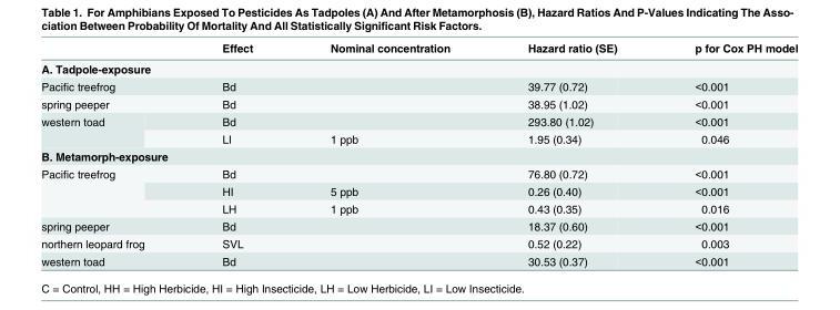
<table><thead><tr><td></td><td>Effect</td><td>Nominal concentration</td><td>Hazard ratio (SE)</td><td>p for Cox PH model</td></tr></thead><tbody><tr><td colspan="5">A. Tadpole-exposure</td></tr><tr><td>Pacific treefrog</td><td>Bd</td><td></td><td>39.77 (0.72)</td><td>&lt;0.001</td></tr><tr><td>spring peeper</td><td>Bd</td><td></td><td>38.95 (1.02)</td><td>&lt;0.001</td></tr><tr><td rowspan="2">western toad</td><td>Bd</td><td></td><td>293.80 (1.02)</td><td>&lt;0.001</td></tr><tr><td>LI</td><td>1 ppb</td><td>1.95 (0.34)</td><td>0.046</td></tr><tr><td colspan="5">B. Metamorph-exposure</td></tr><tr><td rowspan="3">Pacific treefrog</td><td>Bd</td><td></td><td>76.80 (0.72)</td><td>&lt;0.001</td></tr><tr><td>HI</td><td>5 ppb</td><td>0.26 (0.40)</td><td>&lt;0.001</td></tr><tr><td>LH</td><td>1 ppb</td><td>0.43 (0.35)</td><td>0.016</td></tr><tr><td>spring peeper</td><td>Bd</td><td></td><td>18.37 (0.60)</td><td>&lt;0.001</td></tr><tr><td>northern leopard frog</td><td>SVL</td><td></td><td>0.52 (0.22)</td><td>0.003</td></tr><tr><td>western toad</td><td>Bd</td><td></td><td>30.53 (0.37)</td><td>&lt;0.001</td></tr></tbody></table>